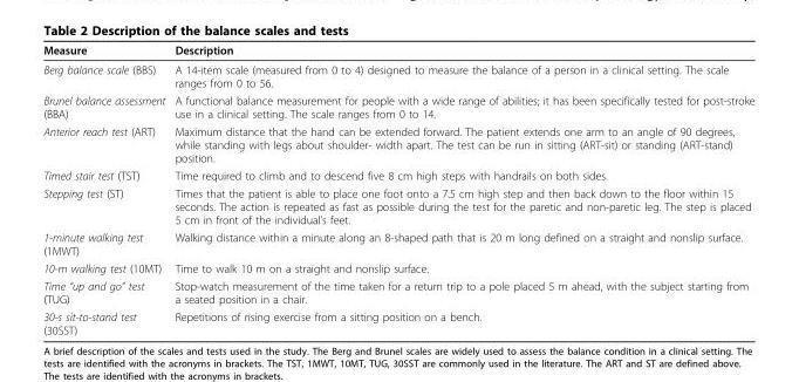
<table><thead><tr><td>Measure</td><td>Description</td></tr></thead><tbody><tr><td>Berg balance scale (BBS)</td><td>A 14-item scale (measured from 0 to 4) designed to measure the balance of a person in a clinical setting. The scale ranges from 0 to 56.</td></tr><tr><td>Brunel balance assessment (BBA)</td><td>A functional balance measurement for people with a wide range of abilities; it has been specifically tested for post-stroke use in a clinical setting. The scale ranges from 0 to 14.</td></tr><tr><td>Anterior reach test (ART)</td><td>Maximum distance that the hand can be extended forward. The patient extends one arm to an angle of 90 degrees, while standing with legs about shoulder- width apart. The test can be run in sitting (ART-sit) or standing (ART-stand) position.</td></tr><tr><td>Timed stair test (TST)</td><td>Time required to climb and to descend five 8 cm high steps with handrails on both sides.</td></tr><tr><td>Stepping test (ST)</td><td>Times that the patient is able to place one foot onto a 7.5 cm high step and then back down to the floor within 15 seconds. The action is repeated as fast as possible during the test for the paretic and non-paretic leg. The step is placed 5 cm in front of the individual’s feet.</td></tr><tr><td>1-minute walking test (1MWT)</td><td>Walking distance within a minute along an 8-shaped path that is 20 m long defined on a straight and nonslip surface.</td></tr><tr><td>10-m walking test (10MT)</td><td>Time to walk 10 m on a straight and nonslip surface.</td></tr><tr><td>Time “up and go” test (TUG)</td><td>Stop-watch measurement of the time taken for a return trip to a pole placed 5 m ahead, with the subject starting from a seated position in a chair.</td></tr><tr><td>30-s sit-to-stand test (30SST)</td><td>Repetitions of rising exercise from a sitting position on a bench.</td></tr></tbody></table>